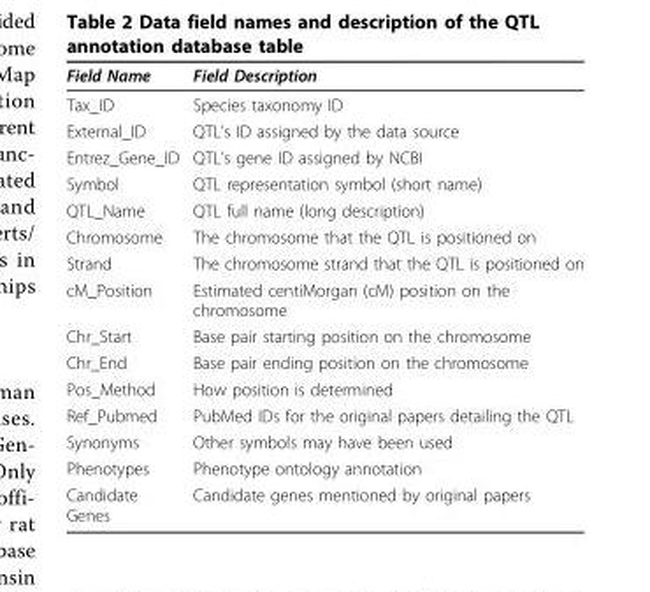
<table><thead><tr><td>Field Name</td><td>Field Description</td></tr></thead><tbody><tr><td>Tax_ID</td><td>Species taxonomy ID</td></tr><tr><td>External_ID</td><td>QTL’s ID assigned by the data source</td></tr><tr><td>Entrez_Gene_ID</td><td>QTL’s gene ID assigned by NCBI</td></tr><tr><td>Symbol</td><td>QTL representation symbol (short name)</td></tr><tr><td>QTL_Name</td><td>QTL full name (long description)</td></tr><tr><td>Chromosome</td><td>The chromosome that the QTL is positioned on</td></tr><tr><td>Strand</td><td>The chromosome strand that the QTL is positioned on</td></tr><tr><td>cM_Position</td><td>Estimated centiMorgan (cM) position on the chromosome</td></tr><tr><td>Chr_Start</td><td>Base pair starting position on the chromosome</td></tr><tr><td>Chr_End</td><td>Base pair ending position on the chromosome</td></tr><tr><td>Pos_Method</td><td>How position is determined</td></tr><tr><td>Ref_Pubmed</td><td>PubMed IDs for the original papers detailing the QTL</td></tr><tr><td>Synonyms</td><td>Other symbols may have been used</td></tr><tr><td>Phenotypes</td><td>Phenotype ontology annotation</td></tr><tr><td>Candidate Genes</td><td>Candidate genes mentioned by original papers</td></tr></tbody></table>